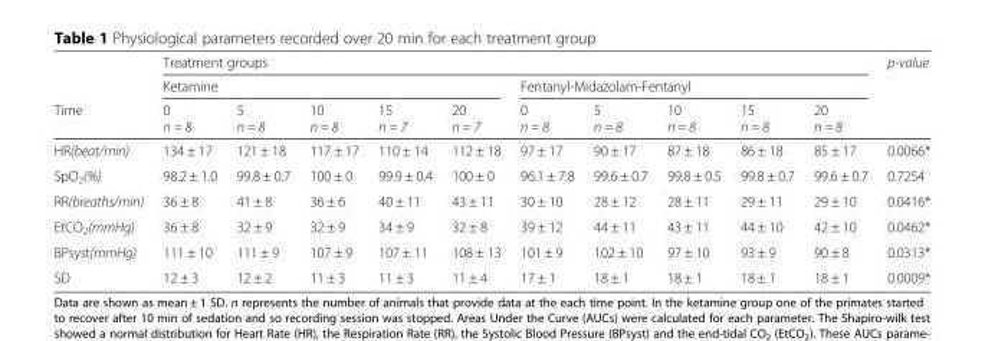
<table><thead><tr><td rowspan="3">Time</td><td colspan="10">Treatment groups</td><td rowspan="3">p-value</td></tr><tr><td colspan="5">Ketamine</td><td colspan="5">Fentanyl-Midazolam-Fentanyl</td></tr><tr><td>0 n = 8</td><td>5 n = 8</td><td>10 n = 8</td><td>15 n = 7</td><td>20 n = 7</td><td>0 n = 8</td><td>5 n = 8</td><td>10 n = 8</td><td>15 n = 8</td><td>20 n = 8</td></tr></thead><tbody><tr><td>HR(beat/min)</td><td>134 ± 17</td><td>121 ± 18</td><td>117 ± 17</td><td>110 ± 14</td><td>112 ± 18</td><td>97 ± 17</td><td>90 ± 17</td><td>87 ± 18</td><td>86 ± 18</td><td>85 ± 17</td><td>0.0066*</td></tr><tr><td>SpO<sub>2</sub>(%)</td><td>98.2 ± 1.0</td><td>99.8 ± 0.7</td><td>100 ± 0</td><td>99.9 ± 0.4</td><td>100 ± 0</td><td>96.1 ± 7.8</td><td>99.6 ± 0.7</td><td>99.8 ± 0.5</td><td>99.8 ± 0.7</td><td>99.6 ± 0.7</td><td>0.7254</td></tr><tr><td>RR(breaths/min)</td><td>36 ± 8</td><td>41 ± 8</td><td>36 ± 6</td><td>40 ± 11</td><td>43 ± 11</td><td>30 ± 10</td><td>28 ± 12</td><td>28 ± 11</td><td>29 ± 11</td><td>29 ± 10</td><td>0.0416*</td></tr><tr><td>EtCO<sub>2</sub>(mmHg)</td><td>36 ± 8</td><td>32 ± 9</td><td>32 ± 9</td><td>34 ± 9</td><td>32 ± 8</td><td>39 ± 12</td><td>44 ± 11</td><td>43 ± 11</td><td>44 ± 10</td><td>42 ± 10</td><td>0.0462*</td></tr><tr><td>BPsyst(mmHg)</td><td>111 ± 10</td><td>111 ± 9</td><td>107 ± 9</td><td>107 ± 11</td><td>108 ± 13</td><td>101 ± 9</td><td>102 ± 10</td><td>97 ± 10</td><td>93 ± 9</td><td>90 ± 8</td><td>0.0313*</td></tr><tr><td>SD</td><td>12 ± 3</td><td>12 ± 2</td><td>11 ± 3</td><td>11 ± 3</td><td>11 ± 4</td><td>17 ± 1</td><td>18 ± 1</td><td>18 ± 1</td><td>18 ± 1</td><td>18 ± 1</td><td>0.0009*</td></tr></tbody></table>